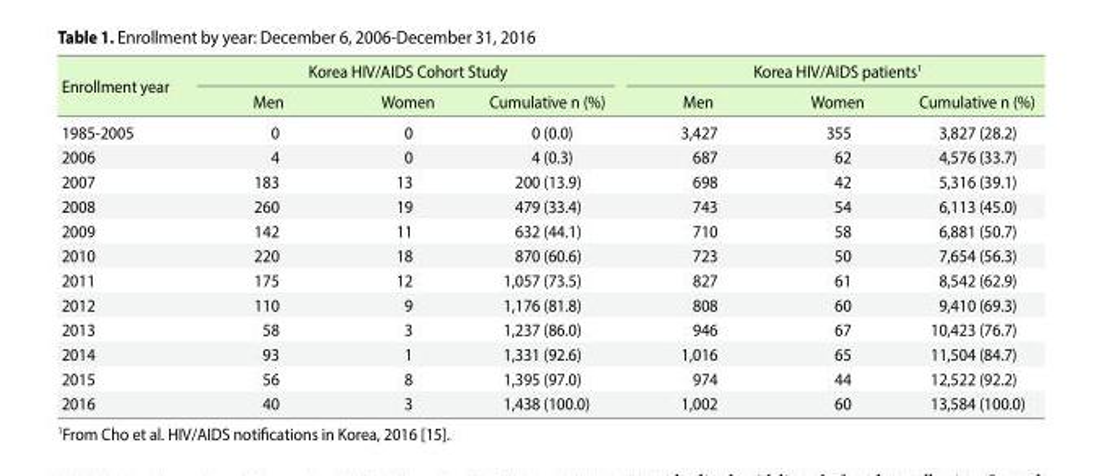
<table><thead><tr><td rowspan="2">Enrollment year</td><td colspan="3">Korea HIV/AIDS Cohort Study</td><td colspan="3">Korea HIV/AIDS patients<sup>1</sup></td></tr><tr><td>Men</td><td>Women</td><td>Cumulative n (%)</td><td>Men</td><td>Women</td><td>Cumulative n (%)</td></tr></thead><tbody><tr><td>1985-2005</td><td>0</td><td>0</td><td>0 (0.0)</td><td>3,427</td><td>355</td><td>3,827 (28.2)</td></tr><tr><td>2006</td><td>4</td><td>0</td><td>4 (0.3)</td><td>687</td><td>62</td><td>4,576 (33.7)</td></tr><tr><td>2007</td><td>183</td><td>13</td><td>200 (13.9)</td><td>698</td><td>42</td><td>5,316 (39.1)</td></tr><tr><td>2008</td><td>260</td><td>19</td><td>479 (33.4)</td><td>743</td><td>54</td><td>6,113 (45.0)</td></tr><tr><td>2009</td><td>142</td><td>11</td><td>632 (44.1)</td><td>710</td><td>58</td><td>6,881 (50.7)</td></tr><tr><td>2010</td><td>220</td><td>18</td><td>870 (60.6)</td><td>723</td><td>50</td><td>7,654 (56.3)</td></tr><tr><td>2011</td><td>175</td><td>12</td><td>1,057 (73.5)</td><td>827</td><td>61</td><td>8,542 (62.9)</td></tr><tr><td>2012</td><td>110</td><td>9</td><td>1,176 (81.8)</td><td>808</td><td>60</td><td>9,410 (69.3)</td></tr><tr><td>2013</td><td>58</td><td>3</td><td>1,237 (86.0)</td><td>946</td><td>67</td><td>10,423 (76.7)</td></tr><tr><td>2014</td><td>93</td><td>1</td><td>1,331 (92.6)</td><td>1,016</td><td>65</td><td>11,504 (84.7)</td></tr><tr><td>2015</td><td>56</td><td>8</td><td>1,395 (97.0)</td><td>974</td><td>44</td><td>12,522 (92.2)</td></tr><tr><td>2016</td><td>40</td><td>3</td><td>1,438 (100.0)</td><td>1,002</td><td>60</td><td>13,584 (100.0)</td></tr></tbody></table>